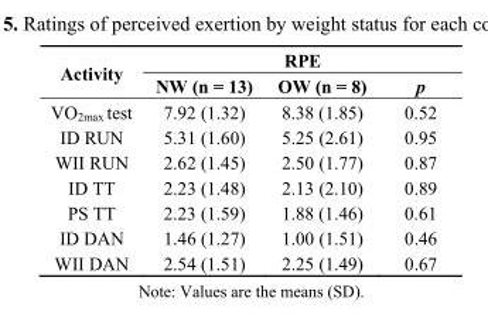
<table><thead><tr><td rowspan="2">Activity</td><td colspan="3">RPE</td></tr><tr><td>NW (n = 13)</td><td>OW (n = 8)</td><td>p</td></tr></thead><tbody><tr><td>VO<sub>2max</sub> test</td><td>7.92 (1.32)</td><td>8.38 (1.85)</td><td>0.52</td></tr><tr><td>ID RUN</td><td>5.31 (1.60)</td><td>5.25 (2.61)</td><td>0.95</td></tr><tr><td>WII RUN</td><td>2.62 (1.45)</td><td>2.50 (1.77)</td><td>0.87</td></tr><tr><td>ID TT</td><td>2.23 (1.48)</td><td>2.13 (2.10)</td><td>0.89</td></tr><tr><td>PS TT</td><td>2.23 (1.59)</td><td>1.88 (1.46)</td><td>0.61</td></tr><tr><td>ID DAN</td><td>1.46 (1.27)</td><td>1.00 (1.51)</td><td>0.46</td></tr><tr><td>WII DAN</td><td>2.54 (1.51)</td><td>2.25 (1.49)</td><td>0.67</td></tr></tbody></table>